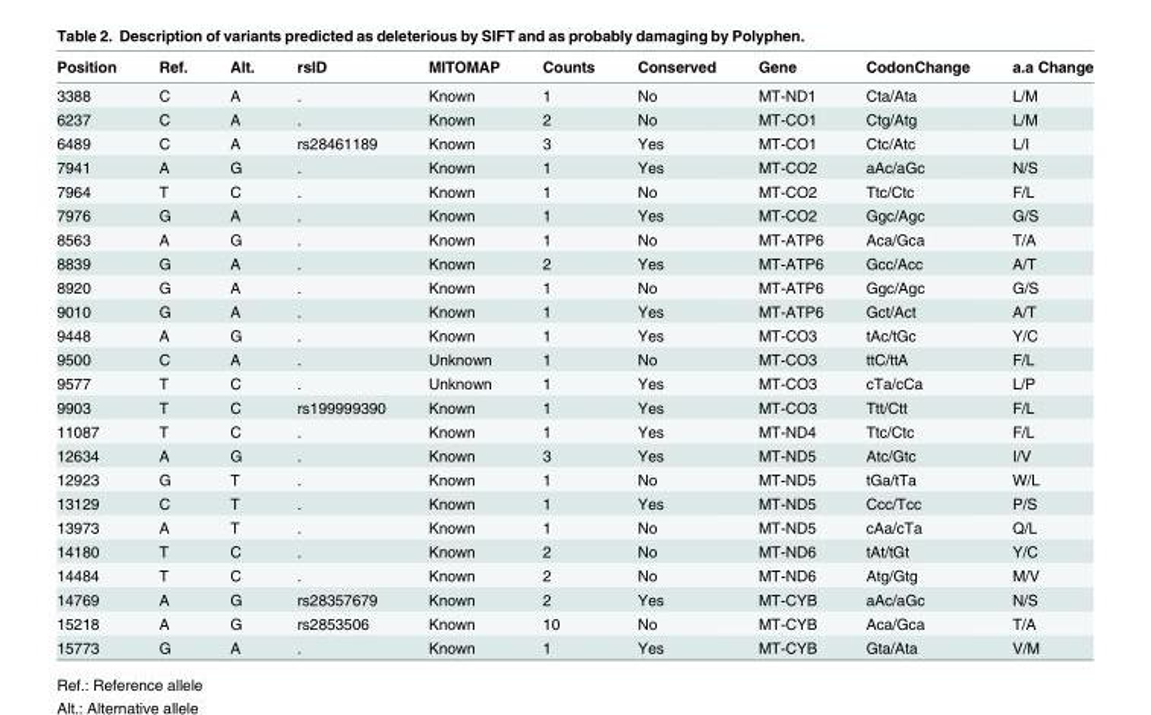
<table><thead><tr><td>Position</td><td>Ref.</td><td>Alt.</td><td>rsID</td><td>MITOMAP</td><td>Counts</td><td>Conserved</td><td>Gene</td><td>CodonChange</td><td>a.a Change</td></tr></thead><tbody><tr><td>3388</td><td>C</td><td>A</td><td>.</td><td>Known</td><td>1</td><td>No</td><td>MT-ND1</td><td>Cta/Ata</td><td>L/M</td></tr><tr><td>6237</td><td>C</td><td>A</td><td>.</td><td>Known</td><td>2</td><td>No</td><td>MT-CO1</td><td>Ctg/Atg</td><td>L/M</td></tr><tr><td>6489</td><td>C</td><td>A</td><td>rs28461189</td><td>Known</td><td>3</td><td>Yes</td><td>MT-CO1</td><td>Ctc/Atc</td><td>L/I</td></tr><tr><td>7941</td><td>A</td><td>G</td><td>.</td><td>Known</td><td>1</td><td>Yes</td><td>MT-CO2</td><td>aAc/aGc</td><td>N/S</td></tr><tr><td>7964</td><td>T</td><td>C</td><td>.</td><td>Known</td><td>1</td><td>No</td><td>MT-CO2</td><td>Ttc/Ctc</td><td>F/L</td></tr><tr><td>7976</td><td>G</td><td>A</td><td>.</td><td>Known</td><td>1</td><td>Yes</td><td>MT-CO2</td><td>Ggc/Agc</td><td>G/S</td></tr><tr><td>8563</td><td>A</td><td>G</td><td>.</td><td>Known</td><td>1</td><td>No</td><td>MT-ATP6</td><td>Aca/Gca</td><td>T/A</td></tr><tr><td>8839</td><td>G</td><td>A</td><td>.</td><td>Known</td><td>2</td><td>Yes</td><td>MT-ATP6</td><td>Gcc/Acc</td><td>A/T</td></tr><tr><td>8920</td><td>G</td><td>A</td><td>.</td><td>Known</td><td>1</td><td>No</td><td>MT-ATP6</td><td>Ggc/Agc</td><td>G/S</td></tr><tr><td>9010</td><td>G</td><td>A</td><td>.</td><td>Known</td><td>1</td><td>Yes</td><td>MT-ATP6</td><td>Gct/Act</td><td>A/T</td></tr><tr><td>9448</td><td>A</td><td>G</td><td>.</td><td>Known</td><td>1</td><td>Yes</td><td>MT-CO3</td><td>tAc/tGc</td><td>Y/C</td></tr><tr><td>9500</td><td>C</td><td>A</td><td>.</td><td>Unknown</td><td>1</td><td>No</td><td>MT-CO3</td><td>ttC/ttA</td><td>F/L</td></tr><tr><td>9577</td><td>T</td><td>C</td><td>.</td><td>Unknown</td><td>1</td><td>Yes</td><td>MT-CO3</td><td>cTa/cCa</td><td>L/P</td></tr><tr><td>9903</td><td>T</td><td>C</td><td>rs199999390</td><td>Known</td><td>1</td><td>Yes</td><td>MT-CO3</td><td>Ttt/Ctt</td><td>F/L</td></tr><tr><td>11087</td><td>T</td><td>C</td><td>.</td><td>Known</td><td>1</td><td>Yes</td><td>MT-ND4</td><td>Ttc/Ctc</td><td>F/L</td></tr><tr><td>12634</td><td>A</td><td>G</td><td>.</td><td>Known</td><td>3</td><td>Yes</td><td>MT-ND5</td><td>Atc/Gtc</td><td>I/V</td></tr><tr><td>12923</td><td>G</td><td>T</td><td>.</td><td>Known</td><td>1</td><td>No</td><td>MT-ND5</td><td>tGa/tTa</td><td>W/L</td></tr><tr><td>13129</td><td>C</td><td>T</td><td>.</td><td>Known</td><td>1</td><td>Yes</td><td>MT-ND5</td><td>Ccc/Tcc</td><td>P/S</td></tr><tr><td>13973</td><td>A</td><td>T</td><td>.</td><td>Known</td><td>1</td><td>No</td><td>MT-ND5</td><td>cAa/cTa</td><td>Q/L</td></tr><tr><td>14180</td><td>T</td><td>C</td><td>.</td><td>Known</td><td>2</td><td>No</td><td>MT-ND6</td><td>tAt/tGt</td><td>Y/C</td></tr><tr><td>14484</td><td>T</td><td>C</td><td>.</td><td>Known</td><td>2</td><td>No</td><td>MT-ND6</td><td>Atg/Gtg</td><td>M/V</td></tr><tr><td>14769</td><td>A</td><td>G</td><td>rs28357679</td><td>Known</td><td>2</td><td>Yes</td><td>MT-CYB</td><td>aAc/aGc</td><td>N/S</td></tr><tr><td>15218</td><td>A</td><td>G</td><td>rs2853506</td><td>Known</td><td>10</td><td>No</td><td>MT-CYB</td><td>Aca/Gca</td><td>T/A</td></tr><tr><td>15773</td><td>G</td><td>A</td><td>.</td><td>Known</td><td>1</td><td>Yes</td><td>MT-CYB</td><td>Gta/Ata</td><td>V/M</td></tr></tbody></table>